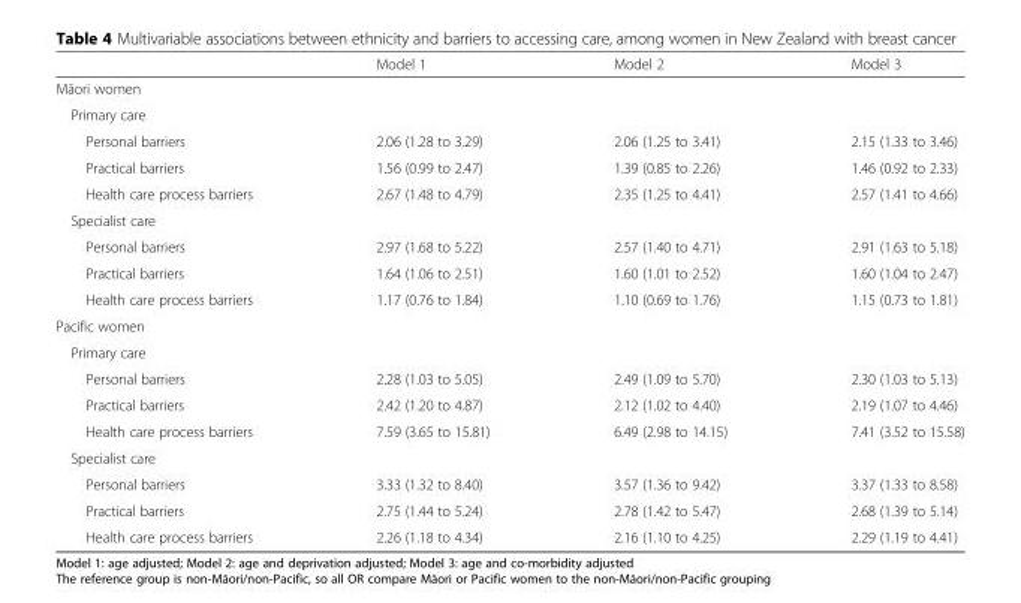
<table><thead><tr><td></td><td>Model 1</td><td>Model 2</td><td>Model 3</td></tr></thead><tbody><tr><td colspan="4">Māori women</td></tr><tr><td colspan="4">Primary care</td></tr><tr><td>Personal barriers</td><td>2.06 (1.28 to 3.29)</td><td>2.06 (1.25 to 3.41)</td><td>2.15 (1.33 to 3.46)</td></tr><tr><td>Practical barriers</td><td>1.56 (0.99 to 2.47)</td><td>1.39 (0.85 to 2.26)</td><td>1.46 (0.92 to 2.33)</td></tr><tr><td>Health care process barriers</td><td>2.67 (1.48 to 4.79)</td><td>2.35 (1.25 to 4.41)</td><td>2.57 (1.41 to 4.66)</td></tr><tr><td colspan="4">Specialist care</td></tr><tr><td>Personal barriers</td><td>2.97 (1.68 to 5.22)</td><td>2.57 (1.40 to 4.71)</td><td>2.91 (1.63 to 5.18)</td></tr><tr><td>Practical barriers</td><td>1.64 (1.06 to 2.51)</td><td>1.60 (1.01 to 2.52)</td><td>1.60 (1.04 to 2.47)</td></tr><tr><td>Health care process barriers</td><td>1.17 (0.76 to 1.84)</td><td>1.10 (0.69 to 1.76)</td><td>1.15 (0.73 to 1.81)</td></tr><tr><td colspan="4">Pacific women</td></tr><tr><td colspan="4">Primary care</td></tr><tr><td>Personal barriers</td><td>2.28 (1.03 to 5.05)</td><td>2.49 (1.09 to 5.70)</td><td>2.30 (1.03 to 5.13)</td></tr><tr><td>Practical barriers</td><td>2.42 (1.20 to 4.87)</td><td>2.12 (1.02 to 4.40)</td><td>2.19 (1.07 to 4.46)</td></tr><tr><td>Health care process barriers</td><td>7.59 (3.65 to 15.81)</td><td>6.49 (2.98 to 14.15)</td><td>7.41 (3.52 to 15.58)</td></tr><tr><td colspan="4">Specialist care</td></tr><tr><td>Personal barriers</td><td>3.33 (1.32 to 8.40)</td><td>3.57 (1.36 to 9.42)</td><td>3.37 (1.33 to 8.58)</td></tr><tr><td>Practical barriers</td><td>2.75 (1.44 to 5.24)</td><td>2.78 (1.42 to 5.47)</td><td>2.68 (1.39 to 5.14)</td></tr><tr><td>Health care process barriers</td><td>2.26 (1.18 to 4.34)</td><td>2.16 (1.10 to 4.25)</td><td>2.29 (1.19 to 4.41)</td></tr></tbody></table>